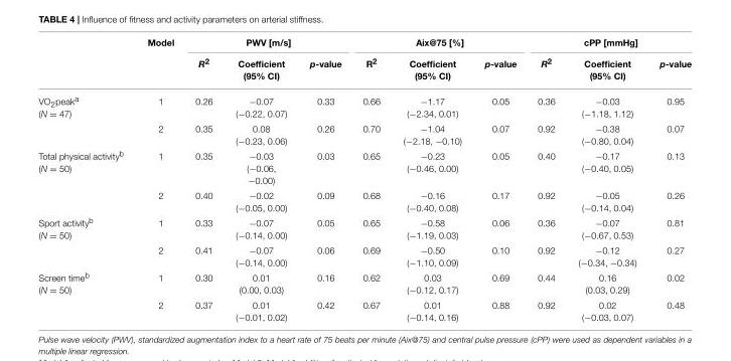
<table><thead><tr><td rowspan="2"></td><td rowspan="2">Model</td><td colspan="3">PWV [m/s]</td><td colspan="3">Aix@75 [%]</td><td colspan="3">cPP [mmHg]</td></tr><tr><td>R<sup>2</sup></td><td>Coefficient (95% CI)</td><td>p-value</td><td>R<sup>2</sup></td><td>Coefficient (95% CI)</td><td>p-value</td><td>R<sup>2</sup></td><td>Coefficient (95% CI)</td><td>p-value</td></tr></thead><tbody><tr><td rowspan="2">VO<sub>2</sub>peak<sup>a</sup> (N = 47)</td><td>1</td><td>0.26</td><td>−0.07 (−0.22, 0.07)</td><td>0.33</td><td>0.66</td><td>−1.17 (−2.34, 0.01)</td><td>0.05</td><td>0.36</td><td>−0.03 (−1.18, 1.12)</td><td>0.95</td></tr><tr><td>2</td><td>0.35</td><td>0.08 (−0.23, 0.06)</td><td>0.26</td><td>0.70</td><td>−1.04 (−2.18, −0.10)</td><td>0.07</td><td>0.92</td><td>−0.38 (−0.80, 0.04)</td><td>0.07</td></tr><tr><td rowspan="2">Total physical activity<sup>b</sup> (N = 50)</td><td>1</td><td>0.35</td><td>−0.03 (−0.06, −0.00)</td><td>0.03</td><td>0.65</td><td>−0.23 (−0.46, 0.00)</td><td>0.05</td><td>0.40</td><td>−0.17 (−0.40, 0.05)</td><td>0.13</td></tr><tr><td>2</td><td>0.40</td><td>−0.02 (−0.05, 0.00)</td><td>0.09</td><td>0.68</td><td>−0.16 (−0.40, 0.08)</td><td>0.17</td><td>0.92</td><td>−0.05 (−0.14, 0.04)</td><td>0.26</td></tr><tr><td rowspan="2">Sport activity<sup>b</sup> (N = 50)</td><td>1</td><td>0.33</td><td>−0.07 (−0.14, 0.00)</td><td>0.05</td><td>0.65</td><td>−0.58 (−1.19, 0.03)</td><td>0.06</td><td>0.36</td><td>−0.07 (−0.67, 0.53)</td><td>0.81</td></tr><tr><td>2</td><td>0.41</td><td>−0.07 (−0.14, 0.00)</td><td>0.06</td><td>0.69</td><td>−0.50 (−1.10, 0.09)</td><td>0.10</td><td>0.92</td><td>−0.12 (−0.34, −0.34)</td><td>0.27</td></tr><tr><td rowspan="2">Screen time<sup>b</sup> (N = 50)</td><td>1</td><td>0.30</td><td>0.01 (0.00, 0.03)</td><td>0.16</td><td>0.62</td><td>0.03 (−0.12, 0.17)</td><td>0.69</td><td>0.44</td><td>0.16 (0.03, 0.29)</td><td>0.02</td></tr><tr><td>2</td><td>0.37</td><td>0.01 (−0.01, 0.02)</td><td>0.42</td><td>0.67</td><td>0.01 (−0.14, 0.16)</td><td>0.88</td><td>0.92</td><td>0.02 (−0.03, 0.07)</td><td>0.48</td></tr></tbody></table>